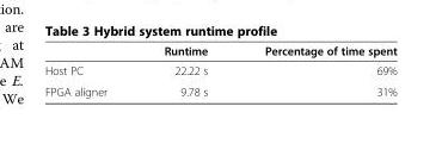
<table><thead><tr><td></td><td>Runtime</td><td>Percentage of time spent</td></tr></thead><tbody><tr><td>Host PC</td><td>22.22 s</td><td>69%</td></tr><tr><td>FPGA aligner</td><td>9.78 s</td><td>31%</td></tr></tbody></table>